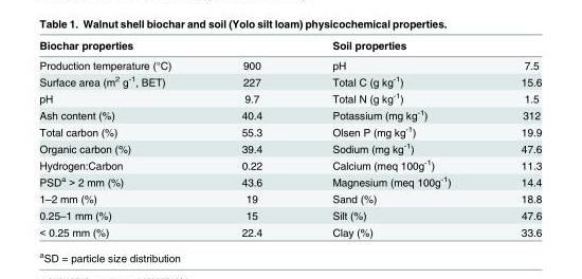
<table><thead><tr><td>Biochar properties</td><td></td><td>Soil properties</td><td></td></tr></thead><tbody><tr><td>Production temperature (°C)</td><td>900</td><td>pH</td><td>7.5</td></tr><tr><td>Surface area (m<sup>2</sup> g<sup>-1</sup>, BET)</td><td>227</td><td>Total C (g kg<sup>-1</sup>)</td><td>15.6</td></tr><tr><td>pH</td><td>9.7</td><td>Total N (g kg<sup>-1</sup>)</td><td>1.5</td></tr><tr><td>Ash content (%)</td><td>40.4</td><td>Potassium (mg kg<sup>-1</sup>)</td><td>312</td></tr><tr><td>Total carbon (%)</td><td>55.3</td><td>Olsen P (mg kg<sup>-1</sup>)</td><td>19.9</td></tr><tr><td>Organic carbon (%)</td><td>39.4</td><td>Sodium (mg kg<sup>-1</sup>)</td><td>47.6</td></tr><tr><td>Hydrogen:Carbon</td><td>0.22</td><td>Calcium (meq 100g<sup>-1</sup>)</td><td>11.3</td></tr><tr><td>PSD<sup>a</sup> &gt; 2 mm (%)</td><td>43.6</td><td>Magnesium (meq 100g<sup>-1</sup>)</td><td>14.4</td></tr><tr><td>1–2 mm (%)</td><td>19</td><td>Sand (%)</td><td>18.8</td></tr><tr><td>0.25–1 mm (%)</td><td>15</td><td>Silt (%)</td><td>47.6</td></tr><tr><td>&lt; 0.25 mm (%)</td><td>22.4</td><td>Clay (%)</td><td>33.6</td></tr></tbody></table>